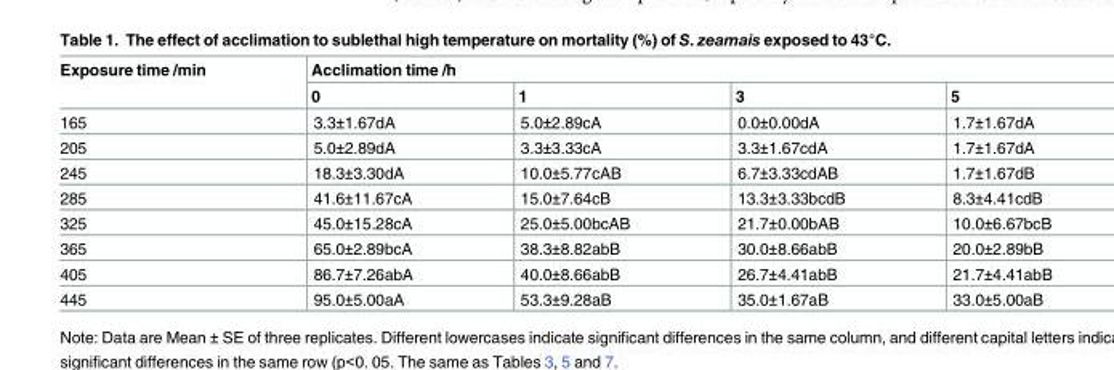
<table><thead><tr><td rowspan="2">Exposure time /min</td><td colspan="4">Acclimation time /h</td></tr><tr><td>0</td><td>1</td><td>3</td><td>5</td></tr></thead><tbody><tr><td>165</td><td>3.3±1.67dA</td><td>5.0±2.89cA</td><td>0.0±0.00dA</td><td>1.7±1.67dA</td></tr><tr><td>205</td><td>5.0±2.89dA</td><td>3.3±3.33cA</td><td>3.3±1.67cdA</td><td>1.7±1.67dA</td></tr><tr><td>245</td><td>18.3±3.30dA</td><td>10.0±5.77cAB</td><td>6.7±3.33cdAB</td><td>1.7±1.67dB</td></tr><tr><td>285</td><td>41.6±11.67cA</td><td>15.0±7.64cB</td><td>13.3±3.33bcdB</td><td>8.3±4.41cdB</td></tr><tr><td>325</td><td>45.0±15.28cA</td><td>25.0±5.00bcAB</td><td>21.7±0.00bAB</td><td>10.0±6.67bcB</td></tr><tr><td>365</td><td>65.0±2.89bcA</td><td>38.3±8.82abB</td><td>30.0±8.66abB</td><td>20.0±2.89bB</td></tr><tr><td>405</td><td>86.7±7.26abA</td><td>40.0±8.66abB</td><td>26.7±4.41abB</td><td>21.7±4.41abB</td></tr><tr><td>445</td><td>95.0±5.00aA</td><td>53.3±9.28aB</td><td>35.0±1.67aB</td><td>33.0±5.00aB</td></tr></tbody></table>